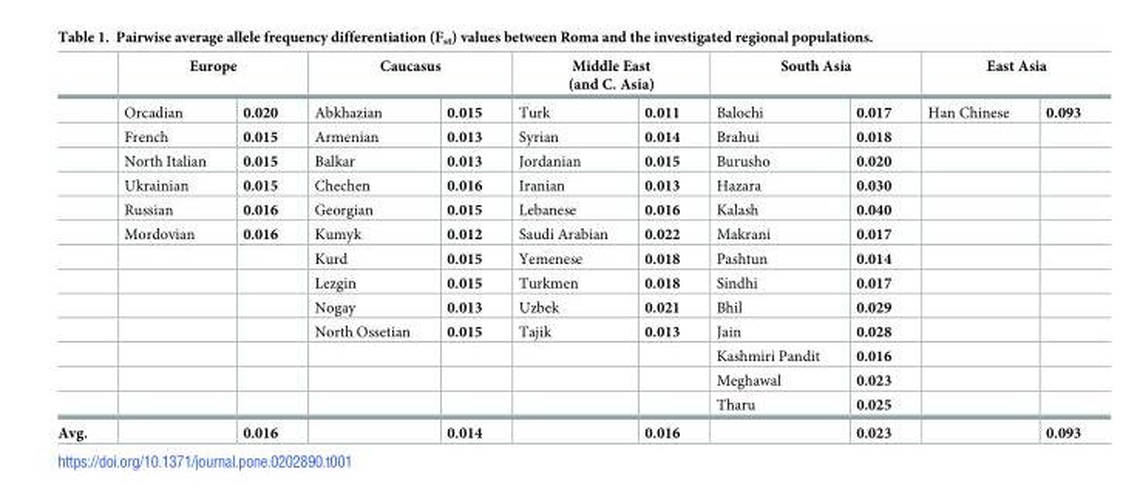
<table><thead><tr><td rowspan="2"></td><td colspan="2">Europe</td><td colspan="2">Caucasus</td><td colspan="2">Middle East (and C. Asia)</td><td colspan="2">South Asia</td><td colspan="2">East Asia</td></tr><tr><td>Orcadian</td><td>0.020</td><td>Abkhazian</td><td>0.015</td><td>Turk</td><td>0.011</td><td>Balochi</td><td>0.017</td><td>Han Chinese</td><td>0.093</td></tr></thead><tbody><tr><td></td><td>French</td><td>0.015</td><td>Armenian</td><td>0.013</td><td>Syrian</td><td>0.014</td><td>Brahui</td><td>0.018</td><td></td><td></td></tr><tr><td></td><td>North Italian</td><td>0.015</td><td>Balkar</td><td>0.013</td><td>Jordanian</td><td>0.015</td><td>Burusho</td><td>0.020</td><td></td><td></td></tr><tr><td></td><td>Ukrainian</td><td>0.015</td><td>Chechen</td><td>0.016</td><td>Iranian</td><td>0.013</td><td>Hazara</td><td>0.030</td><td></td><td></td></tr><tr><td></td><td>Russian</td><td>0.016</td><td>Georgian</td><td>0.015</td><td>Lebanese</td><td>0.016</td><td>Kalash</td><td>0.040</td><td></td><td></td></tr><tr><td></td><td>Mordovian</td><td>0.016</td><td>Kumyk</td><td>0.012</td><td>Saudi Arabian</td><td>0.022</td><td>Makrani</td><td>0.017</td><td></td><td></td></tr><tr><td></td><td></td><td></td><td>Kurd</td><td>0.015</td><td>Yemenese</td><td>0.018</td><td>Pashtun</td><td>0.014</td><td></td><td></td></tr><tr><td></td><td></td><td></td><td>Lezgin</td><td>0.015</td><td>Turkmen</td><td>0.018</td><td>Sindhi</td><td>0.017</td><td></td><td></td></tr><tr><td></td><td></td><td></td><td>Nogay</td><td>0.013</td><td>Uzbek</td><td>0.021</td><td>Bhil</td><td>0.029</td><td></td><td></td></tr><tr><td></td><td></td><td></td><td>North Ossetian</td><td>0.015</td><td>Tajik</td><td>0.013</td><td>Jain</td><td>0.028</td><td></td><td></td></tr><tr><td></td><td></td><td></td><td></td><td></td><td></td><td></td><td>Kashmiri Pandit</td><td>0.016</td><td></td><td></td></tr><tr><td></td><td></td><td></td><td></td><td></td><td></td><td></td><td>Meghawal</td><td>0.023</td><td></td><td></td></tr><tr><td></td><td></td><td></td><td></td><td></td><td></td><td></td><td>Tharu</td><td>0.025</td><td></td><td></td></tr><tr><td>Avg.</td><td></td><td>0.016</td><td></td><td>0.014</td><td></td><td>0.016</td><td></td><td>0.023</td><td></td><td>0.093</td></tr></tbody></table>